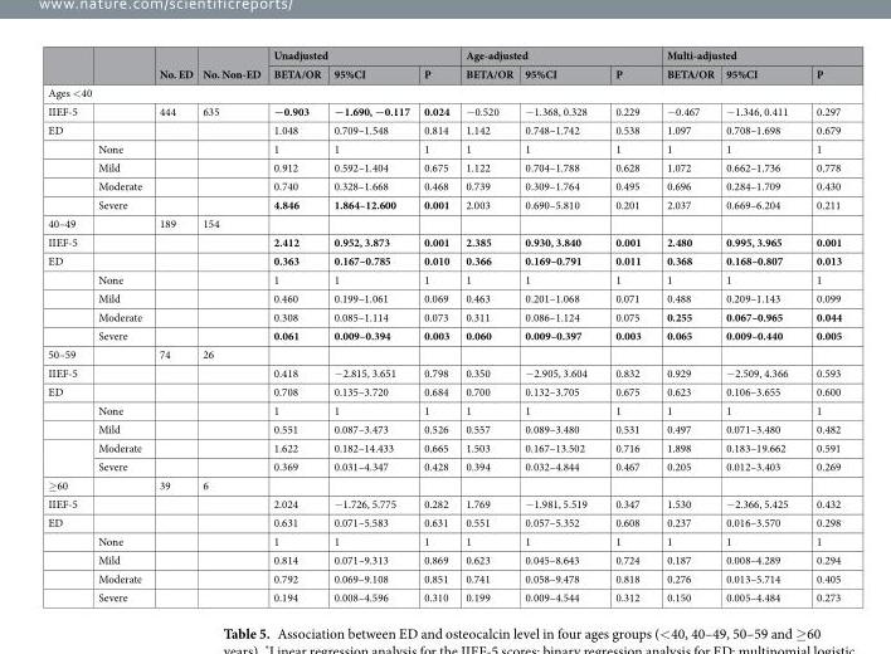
<table><thead><tr><td rowspan="2"></td><td rowspan="2"></td><td rowspan="2">No. ED</td><td rowspan="2">No. Non-ED</td><td colspan="3">Unadjusted</td><td colspan="3">Age-adjusted</td><td colspan="3">Multi-adjusted</td></tr><tr><td>BETA/OR</td><td>95%CI</td><td>P</td><td>BETA/OR</td><td>95%CI</td><td>P</td><td>BETA/OR</td><td>95%CI</td><td>P</td></tr></thead><tbody><tr><td colspan="13">Ages &lt;40</td></tr><tr><td>IIEF-5</td><td></td><td>444</td><td>635</td><td>−0.903</td><td>−1.690, −0.117</td><td>0.024</td><td>−0.520</td><td>−1.368, 0.328</td><td>0.229</td><td>−0.467</td><td>−1.346, 0.411</td><td>0.297</td></tr><tr><td rowspan="5">ED</td><td></td><td></td><td></td><td>1.048</td><td>0.709–1.548</td><td>0.814</td><td>1.142</td><td>0.748–1.742</td><td>0.538</td><td>1.097</td><td>0.708–1.698</td><td>0.679</td></tr><tr><td>None</td><td></td><td></td><td>1</td><td>1</td><td>1</td><td>1</td><td>1</td><td>1</td><td>1</td><td>1</td><td>1</td></tr><tr><td>Mild</td><td></td><td></td><td>0.912</td><td>0.592–1.404</td><td>0.675</td><td>1.122</td><td>0.704–1.788</td><td>0.628</td><td>1.072</td><td>0.662–1.736</td><td>0.778</td></tr><tr><td>Moderate</td><td></td><td></td><td>0.740</td><td>0.328–1.668</td><td>0.468</td><td>0.739</td><td>0.309–1.764</td><td>0.495</td><td>0.696</td><td>0.284–1.709</td><td>0.430</td></tr><tr><td>Severe</td><td></td><td></td><td>4.846</td><td>1.864–12.600</td><td>0.001</td><td>2.003</td><td>0.690–5.810</td><td>0.201</td><td>2.037</td><td>0.669–6.204</td><td>0.211</td></tr><tr><td>40–49</td><td></td><td>189</td><td>154</td><td></td><td></td><td></td><td></td><td></td><td></td><td></td><td></td><td></td></tr><tr><td>IIEF-5</td><td></td><td></td><td></td><td>2.412</td><td>0.952, 3.873</td><td>0.001</td><td>2.385</td><td>0.930, 3.840</td><td>0.001</td><td>2.480</td><td>0.995, 3.965</td><td>0.001</td></tr><tr><td rowspan="5">ED</td><td></td><td></td><td></td><td>0.363</td><td>0.167–0.785</td><td>0.010</td><td>0.366</td><td>0.169–0.791</td><td>0.011</td><td>0.368</td><td>0.168–0.807</td><td>0.013</td></tr><tr><td>None</td><td></td><td></td><td>1</td><td>1</td><td>1</td><td>1</td><td>1</td><td>1</td><td>1</td><td>1</td><td>1</td></tr><tr><td>Mild</td><td></td><td></td><td>0.460</td><td>0.199–1.061</td><td>0.069</td><td>0.463</td><td>0.201–1.068</td><td>0.071</td><td>0.488</td><td>0.209–1.143</td><td>0.099</td></tr><tr><td>Moderate</td><td></td><td></td><td>0.308</td><td>0.085–1.114</td><td>0.073</td><td>0.311</td><td>0.086–1.124</td><td>0.075</td><td>0.255</td><td>0.067–0.965</td><td>0.044</td></tr><tr><td>Severe</td><td></td><td></td><td>0.061</td><td>0.009–0.394</td><td>0.003</td><td>0.060</td><td>0.009–0.397</td><td>0.003</td><td>0.065</td><td>0.009–0.440</td><td>0.005</td></tr><tr><td>50–59</td><td></td><td>74</td><td>26</td><td></td><td></td><td></td><td></td><td></td><td></td><td></td><td></td><td></td></tr><tr><td>IIEF-5</td><td></td><td></td><td></td><td>0.418</td><td>−2.815, 3.651</td><td>0.798</td><td>0.350</td><td>−2.905, 3.604</td><td>0.832</td><td>0.929</td><td>−2.509, 4.366</td><td>0.593</td></tr><tr><td rowspan="5">ED</td><td></td><td></td><td></td><td>0.708</td><td>0.135–3.720</td><td>0.684</td><td>0.700</td><td>0.132–3.705</td><td>0.675</td><td>0.623</td><td>0.106–3.655</td><td>0.600</td></tr><tr><td>None</td><td></td><td></td><td>1</td><td>1</td><td>1</td><td>1</td><td>1</td><td>1</td><td>1</td><td>1</td><td>1</td></tr><tr><td>Mild</td><td></td><td></td><td>0.551</td><td>0.087–3.473</td><td>0.526</td><td>0.557</td><td>0.089–3.480</td><td>0.531</td><td>0.497</td><td>0.071–3.480</td><td>0.482</td></tr><tr><td>Moderate</td><td></td><td></td><td>1.622</td><td>0.182–14.433</td><td>0.665</td><td>1.503</td><td>0.167–13.502</td><td>0.716</td><td>1.898</td><td>0.183–19.662</td><td>0.591</td></tr><tr><td>Severe</td><td></td><td></td><td>0.369</td><td>0.031–4.347</td><td>0.428</td><td>0.394</td><td>0.032–4.844</td><td>0.467</td><td>0.205</td><td>0.012–3.403</td><td>0.269</td></tr><tr><td>≥60</td><td></td><td>39</td><td>6</td><td></td><td></td><td></td><td></td><td></td><td></td><td></td><td></td><td></td></tr><tr><td>IIEF-5</td><td></td><td></td><td></td><td>2.024</td><td>−1.726, 5.775</td><td>0.282</td><td>1.769</td><td>−1.981, 5.519</td><td>0.347</td><td>1.530</td><td>−2.366, 5.425</td><td>0.432</td></tr><tr><td rowspan="5">ED</td><td></td><td></td><td></td><td>0.631</td><td>0.071–5.583</td><td>0.631</td><td>0.551</td><td>0.057–5.352</td><td>0.608</td><td>0.237</td><td>0.016–3.570</td><td>0.298</td></tr><tr><td>None</td><td></td><td></td><td>1</td><td>1</td><td>1</td><td>1</td><td>1</td><td>1</td><td>1</td><td>1</td><td>1</td></tr><tr><td>Mild</td><td></td><td></td><td>0.814</td><td>0.071–9.313</td><td>0.869</td><td>0.623</td><td>0.045–8.643</td><td>0.724</td><td>0.187</td><td>0.008–4.289</td><td>0.294</td></tr><tr><td>Moderate</td><td></td><td></td><td>0.792</td><td>0.069–9.108</td><td>0.851</td><td>0.741</td><td>0.058–9.478</td><td>0.818</td><td>0.276</td><td>0.013–5.714</td><td>0.405</td></tr><tr><td>Severe</td><td></td><td></td><td>0.194</td><td>0.008–4.596</td><td>0.310</td><td>0.199</td><td>0.009–4.544</td><td>0.312</td><td>0.150</td><td>0.005–4.484</td><td>0.273</td></tr></tbody></table>